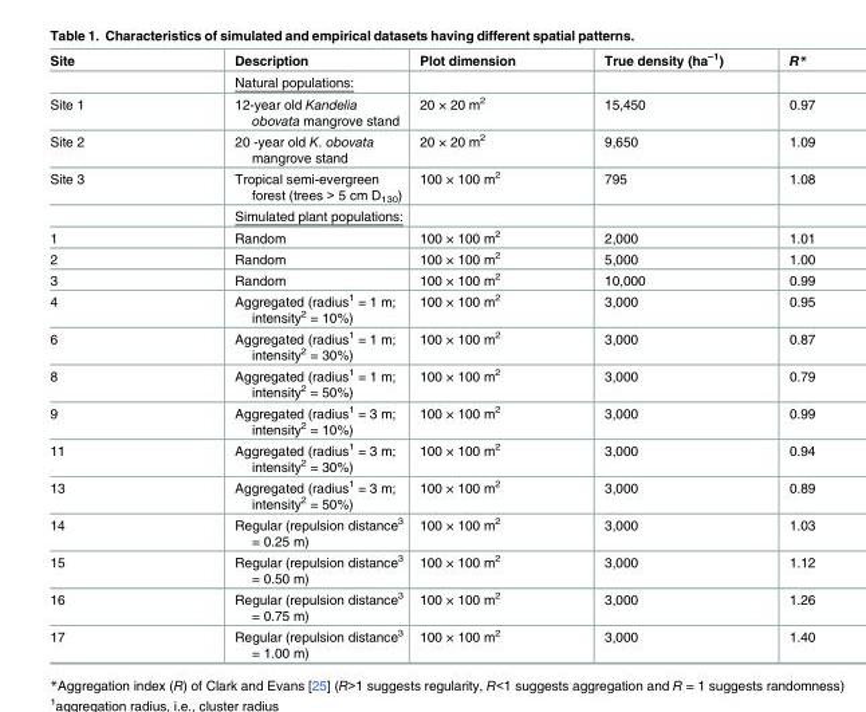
<table><thead><tr><td>Site</td><td>Description</td><td>Plot dimension</td><td>True density (ha<sup>–1</sup>)</td><td>R*</td></tr></thead><tbody><tr><td></td><td>Natural populations:</td><td></td><td></td><td></td></tr><tr><td>Site 1</td><td>12-year old Kandelia obovata mangrove stand</td><td>20 × 20 m<sup>2</sup></td><td>15,450</td><td>0.97</td></tr><tr><td>Site 2</td><td>20 -year old K. obovata mangrove stand</td><td>20 × 20 m<sup>2</sup></td><td>9,650</td><td>1.09</td></tr><tr><td rowspan="2">Site 3</td><td>Tropical semi-evergreen forest (trees &gt; 5 cm D<sub>130</sub>)</td><td>100 × 100 m<sup>2</sup></td><td>795</td><td>1.08</td></tr><tr><td>Simulated plant populations:</td><td></td><td></td><td></td></tr><tr><td>1</td><td>Random</td><td>100 × 100 m<sup>2</sup></td><td>2,000</td><td>1.01</td></tr><tr><td>2</td><td>Random</td><td>100 × 100 m<sup>2</sup></td><td>5,000</td><td>1.00</td></tr><tr><td>3</td><td>Random</td><td>100 × 100 m<sup>2</sup></td><td>10,000</td><td>0.99</td></tr><tr><td>4</td><td>Aggregated (radius<sup>1</sup> = 1 m; intensity<sup>2</sup> = 10%)</td><td>100 × 100 m<sup>2</sup></td><td>3,000</td><td>0.95</td></tr><tr><td>6</td><td>Aggregated (radius<sup>1</sup> = 1 m; intensity<sup>2</sup> = 30%)</td><td>100 × 100 m<sup>2</sup></td><td>3,000</td><td>0.87</td></tr><tr><td>8</td><td>Aggregated (radius<sup>1</sup> = 1 m; intensity<sup>2</sup> = 50%)</td><td>100 × 100 m<sup>2</sup></td><td>3,000</td><td>0.79</td></tr><tr><td>9</td><td>Aggregated (radius<sup>1</sup> = 3 m; intensity<sup>2</sup> = 10%)</td><td>100 × 100 m<sup>2</sup></td><td>3,000</td><td>0.99</td></tr><tr><td>11</td><td>Aggregated (radius<sup>1</sup> = 3 m; intensity<sup>2</sup> = 30%)</td><td>100 × 100 m<sup>2</sup></td><td>3,000</td><td>0.94</td></tr><tr><td>13</td><td>Aggregated (radius<sup>1</sup> = 3 m; intensity<sup>2</sup> = 50%)</td><td>100 × 100 m<sup>2</sup></td><td>3,000</td><td>0.89</td></tr><tr><td>14</td><td>Regular (repulsion distance<sup>3</sup> = 0.25 m)</td><td>100 × 100 m<sup>2</sup></td><td>3,000</td><td>1.03</td></tr><tr><td>15</td><td>Regular (repulsion distance<sup>3</sup> = 0.50 m)</td><td>100 × 100 m<sup>2</sup></td><td>3,000</td><td>1.12</td></tr><tr><td>16</td><td>Regular (repulsion distance<sup>3</sup> = 0.75 m)</td><td>100 × 100 m<sup>2</sup></td><td>3,000</td><td>1.26</td></tr><tr><td>17</td><td>Regular (repulsion distance<sup>3</sup> = 1.00 m)</td><td>100 × 100 m<sup>2</sup></td><td>3,000</td><td>1.40</td></tr></tbody></table>